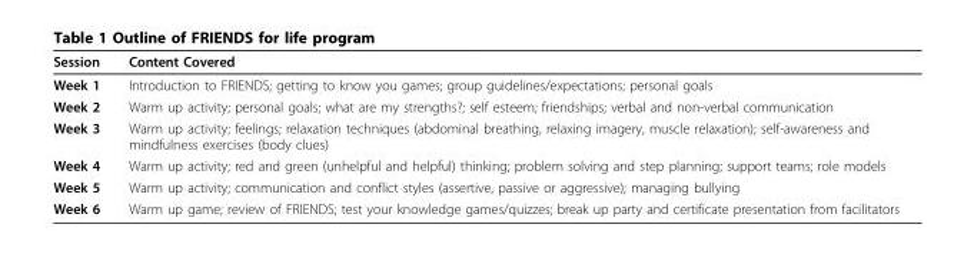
<table><thead><tr><td>Session</td><td>Content Covered</td></tr></thead><tbody><tr><td>Week 1</td><td>Introduction to FRIENDS; getting to know you games; group guidelines/expectations; personal goals</td></tr><tr><td>Week 2</td><td>Warm up activity; personal goals; what are my strengths?; self esteem; friendships; verbal and non-verbal communication</td></tr><tr><td>Week 3</td><td>Warm up activity; feelings; relaxation techniques (abdominal breathing, relaxing imagery, muscle relaxation); self-awareness and mindfulness exercises (body clues)</td></tr><tr><td>Week 4</td><td>Warm up activity; red and green (unhelpful and helpful) thinking; problem solving and step planning; support teams; role models</td></tr><tr><td>Week 5</td><td>Warm up activity; communication and conflict styles (assertive, passive or aggressive); managing bullying</td></tr><tr><td>Week 6</td><td>Warm up game; review of FRIENDS; test your knowledge games/quizzes; break up party and certificate presentation from facilitators</td></tr></tbody></table>